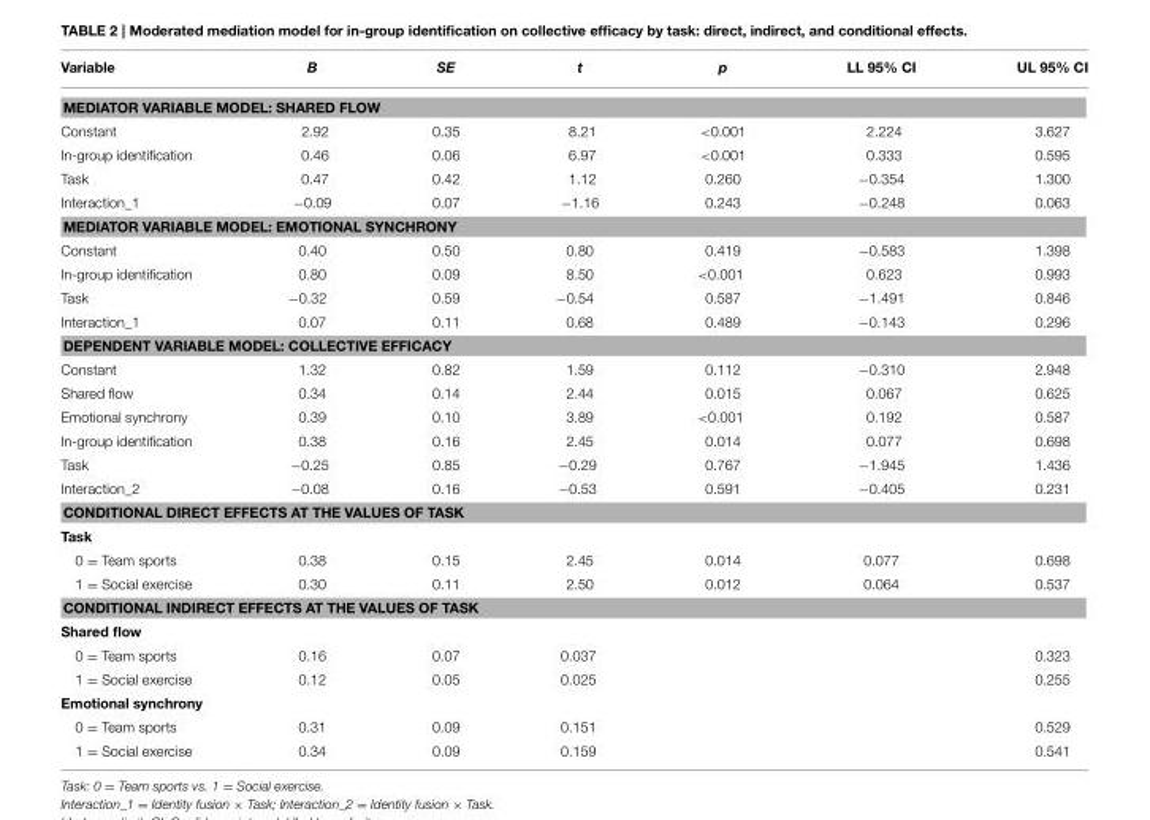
<table><thead><tr><td>Variable</td><td>B</td><td>SE</td><td>t</td><td>p</td><td>LL 95% CI</td><td>UL 95% CI</td></tr></thead><tbody><tr><td colspan="7">MEDIATOR VARIABLE MODEL: SHARED FLOW</td></tr><tr><td>Constant</td><td>2.92</td><td>0.35</td><td>8.21</td><td>&lt;0.001</td><td>2.224</td><td>3.627</td></tr><tr><td>In-group identification</td><td>0.46</td><td>0.06</td><td>6.97</td><td>&lt;0.001</td><td>0.333</td><td>0.595</td></tr><tr><td>Task</td><td>0.47</td><td>0.42</td><td>1.12</td><td>0.260</td><td>−0.354</td><td>1.300</td></tr><tr><td>Interaction_1</td><td>−0.09</td><td>0.07</td><td>−1.16</td><td>0.243</td><td>−0.248</td><td>0.063</td></tr><tr><td colspan="7">MEDIATOR VARIABLE MODEL: EMOTIONAL SYNCHRONY</td></tr><tr><td>Constant</td><td>0.40</td><td>0.50</td><td>0.80</td><td>0.419</td><td>−0.583</td><td>1.398</td></tr><tr><td>In-group identification</td><td>0.80</td><td>0.09</td><td>8.50</td><td>&lt;0.001</td><td>0.623</td><td>0.993</td></tr><tr><td>Task</td><td>−0.32</td><td>0.59</td><td>−0.54</td><td>0.587</td><td>−1.491</td><td>0.846</td></tr><tr><td>Interaction_1</td><td>0.07</td><td>0.11</td><td>0.68</td><td>0.489</td><td>−0.143</td><td>0.296</td></tr><tr><td colspan="7">DEPENDENT VARIABLE MODEL: COLLECTIVE EFFICACY</td></tr><tr><td>Constant</td><td>1.32</td><td>0.82</td><td>1.59</td><td>0.112</td><td>−0.310</td><td>2.948</td></tr><tr><td>Shared flow</td><td>0.34</td><td>0.14</td><td>2.44</td><td>0.015</td><td>0.067</td><td>0.625</td></tr><tr><td>Emotional synchrony</td><td>0.39</td><td>0.10</td><td>3.89</td><td>&lt;0.001</td><td>0.192</td><td>0.587</td></tr><tr><td>In-group identification</td><td>0.38</td><td>0.16</td><td>2.45</td><td>0.014</td><td>0.077</td><td>0.698</td></tr><tr><td>Task</td><td>−0.25</td><td>0.85</td><td>−0.29</td><td>0.767</td><td>−1.945</td><td>1.436</td></tr><tr><td>Interaction_2</td><td>−0.08</td><td>0.16</td><td>−0.53</td><td>0.591</td><td>−0.405</td><td>0.231</td></tr><tr><td colspan="7">CONDITIONAL DIRECT EFFECTS AT THE VALUES OF TASK</td></tr><tr><td colspan="7">Task</td></tr><tr><td>0 = Team sports</td><td>0.38</td><td>0.15</td><td>2.45</td><td>0.014</td><td>0.077</td><td>0.698</td></tr><tr><td>1 = Social exercise</td><td>0.30</td><td>0.11</td><td>2.50</td><td>0.012</td><td>0.064</td><td>0.537</td></tr><tr><td colspan="7">CONDITIONAL INDIRECT EFFECTS AT THE VALUES OF TASK</td></tr><tr><td colspan="7">Shared flow</td></tr><tr><td>0 = Team sports</td><td>0.16</td><td>0.07</td><td colspan="3">0.037</td><td>0.323</td></tr><tr><td>1 = Social exercise</td><td>0.12</td><td>0.05</td><td colspan="3">0.025</td><td>0.255</td></tr><tr><td colspan="7">Emotional synchrony</td></tr><tr><td>0 = Team sports</td><td>0.31</td><td>0.09</td><td colspan="3">0.151</td><td>0.529</td></tr><tr><td>1 = Social exercise</td><td>0.34</td><td>0.09</td><td colspan="3">0.159</td><td>0.541</td></tr></tbody></table>